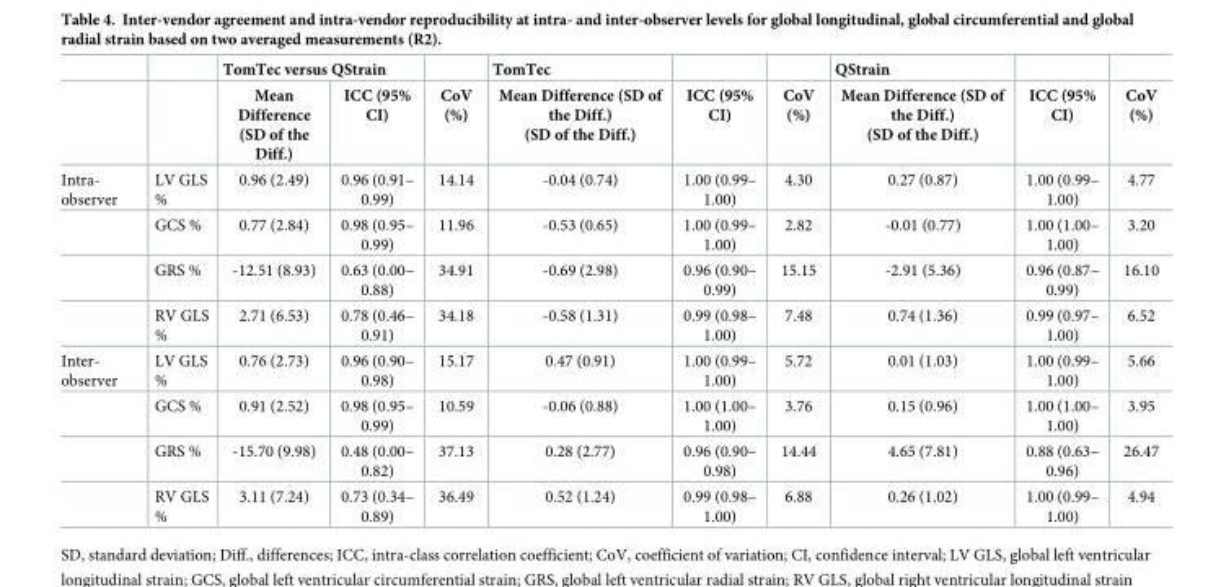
<table><thead><tr><td rowspan="2"></td><td rowspan="2"></td><td colspan="2">TomTec versus QStrain</td><td rowspan="2">CoV (%)</td><td rowspan="2">TomTec Mean Difference (SD of the Diff.) (SD of the Diff.)</td><td rowspan="2">ICC (95% CI)</td><td rowspan="2">CoV (%)</td><td rowspan="2">QStrain Mean Difference (SD of the Diff.) (SD of the Diff.)</td><td rowspan="2">ICC (95% CI)</td><td rowspan="2">CoV (%)</td></tr><tr><td>Mean Difference (SD of the Diff.)</td><td>ICC (95% CI)</td></tr></thead><tbody><tr><td rowspan="4">Intra- observer</td><td>LV GLS %</td><td>0.96 (2.49)</td><td>0.96 (0.91– 0.99)</td><td>14.14</td><td>-0.04 (0.74)</td><td>1.00 (0.99– 1.00)</td><td>4.30</td><td>0.27 (0.87)</td><td>1.00 (0.99– 1.00)</td><td>4.77</td></tr><tr><td>GCS %</td><td>0.77 (2.84)</td><td>0.98 (0.95– 0.99)</td><td>11.96</td><td>-0.53 (0.65)</td><td>1.00 (0.99– 1.00)</td><td>2.82</td><td>-0.01 (0.77)</td><td>1.00 (1.00– 1.00)</td><td>3.20</td></tr><tr><td>GRS %</td><td>-12.51 (8.93)</td><td>0.63 (0.00– 0.88)</td><td>34.91</td><td>-0.69 (2.98)</td><td>0.96 (0.90– 0.99)</td><td>15.15</td><td>-2.91 (5.36)</td><td>0.96 (0.87– 0.99)</td><td>16.10</td></tr><tr><td>RV GLS %</td><td>2.71 (6.53)</td><td>0.78 (0.46– 0.91)</td><td>34.18</td><td>-0.58 (1.31)</td><td>0.99 (0.98– 1.00)</td><td>7.48</td><td>0.74 (1.36)</td><td>0.99 (0.97– 1.00)</td><td>6.52</td></tr><tr><td rowspan="4">Inter- observer</td><td>LV GLS %</td><td>0.76 (2.73)</td><td>0.96 (0.90– 0.98)</td><td>15.17</td><td>0.47 (0.91)</td><td>1.00 (0.99– 1.00)</td><td>5.72</td><td>0.01 (1.03)</td><td>1.00 (0.99– 1.00)</td><td>5.66</td></tr><tr><td>GCS %</td><td>0.91 (2.52)</td><td>0.98 (0.95– 0.99)</td><td>10.59</td><td>-0.06 (0.88)</td><td>1.00 (1.00– 1.00)</td><td>3.76</td><td>0.15 (0.96)</td><td>1.00 (1.00– 1.00)</td><td>3.95</td></tr><tr><td>GRS %</td><td>-15.70 (9.98)</td><td>0.48 (0.00– 0.82)</td><td>37.13</td><td>0.28 (2.77)</td><td>0.96 (0.90– 0.98)</td><td>14.44</td><td>4.65 (7.81)</td><td>0.88 (0.63– 0.96)</td><td>26.47</td></tr><tr><td>RV GLS %</td><td>3.11 (7.24)</td><td>0.73 (0.34– 0.89)</td><td>36.49</td><td>0.52 (1.24)</td><td>0.99 (0.98– 1.00)</td><td>6.88</td><td>0.26 (1.02)</td><td>1.00 (0.99– 1.00)</td><td>4.94</td></tr></tbody></table>